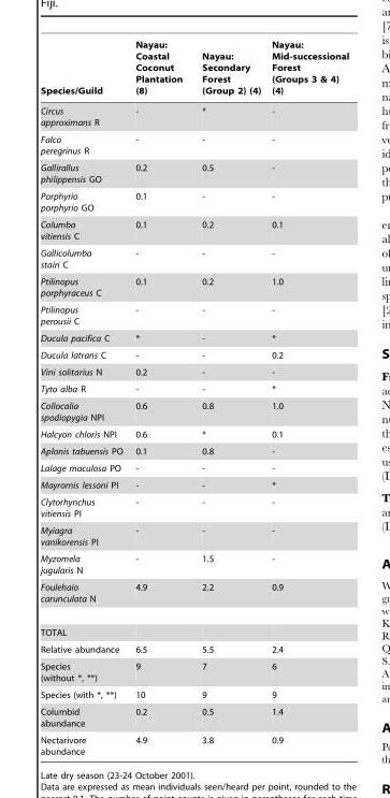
<table><thead><tr><td>Species/Guild</td><td>Nayau: Coastal Coconut Plantation (8)</td><td>Nayau: Secondary Forest {Group 2} (4)</td><td>Nayau: Mid-successional Forest {Groups 3 &amp; 4} (4)</td></tr></thead><tbody><tr><td>Circus approximans R</td><td>-</td><td>*</td><td>-</td></tr><tr><td>Falco peregrinus R</td><td>-</td><td>-</td><td>-</td></tr><tr><td>Gallirallus philippensis GO</td><td>0.2</td><td>0.5</td><td>-</td></tr><tr><td>Porphyrio porphyrio GO</td><td>0.1</td><td>-</td><td>-</td></tr><tr><td>Columba vitiensis C</td><td>0.1</td><td>0.2</td><td>0.1</td></tr><tr><td>Gallicolumba stairi C</td><td>-</td><td>-</td><td>-</td></tr><tr><td>Ptilinopus porphyraceus C</td><td>0.1</td><td>0.2</td><td>1.0</td></tr><tr><td>Ptilinopus perousii C</td><td>-</td><td>-</td><td>-</td></tr><tr><td>Ducula pacifica C</td><td>*</td><td>-</td><td>*</td></tr><tr><td>Ducula latrans C</td><td>-</td><td>-</td><td>0.2</td></tr><tr><td>Vini solitarius N</td><td>0.2</td><td>-</td><td>-</td></tr><tr><td>Tyto alba R</td><td>-</td><td>-</td><td>*</td></tr><tr><td>Collocalia spodiopygia NPI</td><td>0.6</td><td>0.8</td><td>1.0</td></tr><tr><td>Halcyon chloris NPI</td><td>0.6</td><td>*</td><td>0.1</td></tr><tr><td>Aplonis tabuensis PO</td><td>0.1</td><td>0.8</td><td>-</td></tr><tr><td>Lalage maculosa PO</td><td>-</td><td>-</td><td>-</td></tr><tr><td>Mayrornis lessoni PI</td><td>-</td><td>-</td><td>*</td></tr><tr><td>Clytorhynchus vitiensis PI</td><td>-</td><td>-</td><td>-</td></tr><tr><td>Myiagra vanikorensis PI</td><td>-</td><td>-</td><td>-</td></tr><tr><td>Myzomela jugularis N</td><td>-</td><td>1.5</td><td>-</td></tr><tr><td>Foulehaio carunculata N</td><td>4.9</td><td>2.2</td><td>0.9</td></tr><tr><td colspan="4">TOTAL</td></tr><tr><td>Relative abundance</td><td>6.5</td><td>5.5</td><td>2.4</td></tr><tr><td>Species (without *, **)</td><td>9</td><td>7</td><td>6</td></tr><tr><td>Species (with *, **)</td><td>10</td><td>9</td><td>9</td></tr><tr><td>Columbid abundance</td><td>0.2</td><td>0.5</td><td>1.4</td></tr><tr><td>Nectarivore abundance</td><td>4.9</td><td>3.8</td><td>0.9</td></tr></tbody></table>